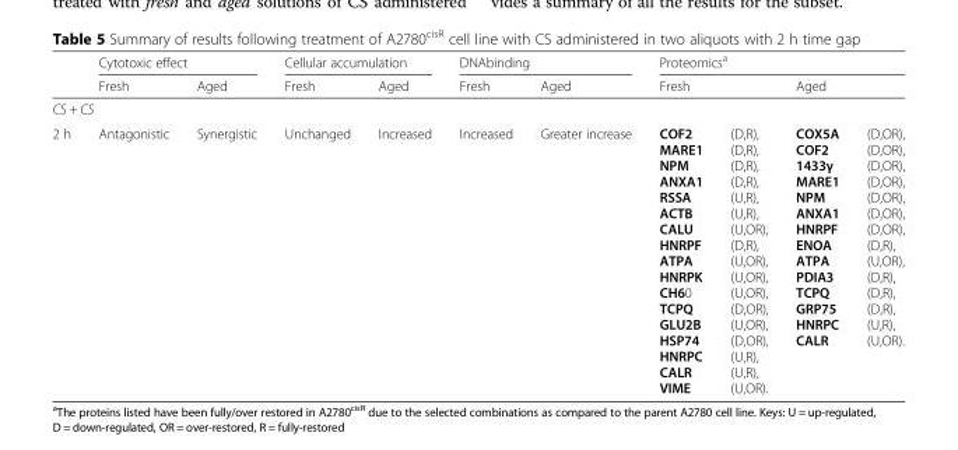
<table><thead><tr><td rowspan="2"></td><td colspan="2">Cytotoxic effect</td><td colspan="2">Cellular accumulation</td><td colspan="2">DNAbinding</td><td colspan="4">Proteomics<sup>a</sup></td></tr><tr><td>Fresh</td><td>Aged</td><td>Fresh</td><td>Aged</td><td>Fresh</td><td>Aged</td><td colspan="2">Fresh</td><td colspan="2">Aged</td></tr><tr><td colspan="11">CS + CS</td></tr><tr><td>2 h</td><td>Antagonistic</td><td>Synergistic</td><td>Unchanged</td><td>Increased</td><td>Increased</td><td>Greater increase</td><td>COF2 MARE1 NPM ANXA1 RSSA ACTB CALU HNRPF ATPA HNRPK CH60 TCPQ GLU2B HSP74 HNRPC CALR VIME</td><td>(D,R), (D,R), (D,R), (D,R), (U,R), (U,R), (U,OR), (D,R), (U,OR), (U,OR), (U,OR), (D,OR), (U,OR), (D,OR), (U,R), (U,R), (U,OR).</td><td>COX5A COF2 1433γ MARE1 NPM ANXA1 HNRPF ENOA ATPA PDIA3 TCPQ GRP75 HNRPC CALR</td><td>(D,OR), (D,OR), (D,OR), (D,OR), (D,OR), (D,OR), (D,OR), (D,R), (U,OR), (D,R), (D,R), (D,R), (U,R), (U,OR).</td></tr></thead><tbody></tbody></table>